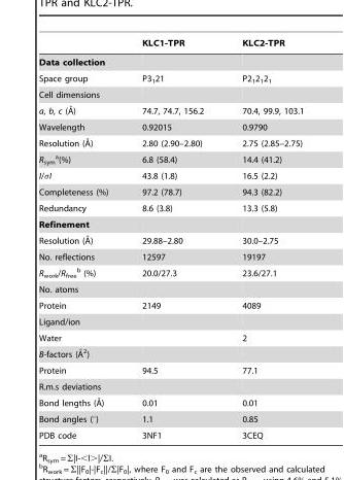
<table><thead><tr><td></td><td>KLC1-TPR</td><td>KLC2-TPR</td></tr></thead><tbody><tr><td colspan="3">Data collection</td></tr><tr><td>Space group</td><td>P3<sub>1</sub>21</td><td>P2<sub>1</sub>2<sub>1</sub>2<sub>1</sub></td></tr><tr><td colspan="3">Cell dimensions</td></tr><tr><td>a, b, c (A˚)</td><td>74.7, 74.7, 156.2</td><td>70.4, 99.9, 103.1</td></tr><tr><td>Wavelength</td><td>0.92015</td><td>0.9790</td></tr><tr><td>Resolution (A˚)</td><td>2.80 (2.90–2.80)</td><td>2.75 (2.85–2.75)</td></tr><tr><td>R<sub>sym</sub> a(%)</td><td>6.8 (58.4)</td><td>14.4 (41.2)</td></tr><tr><td>I/σI</td><td>43.8 (1.8)</td><td>16.5 (2.2)</td></tr><tr><td>Completeness (%)</td><td>97.2 (78.7)</td><td>94.3 (82.2)</td></tr><tr><td>Redundancy</td><td>8.6 (3.8)</td><td>13.3 (5.8)</td></tr><tr><td colspan="3">Refinement</td></tr><tr><td>Resolution (A˚)</td><td>29.88–2.80</td><td>30.0–2.75</td></tr><tr><td>No. reflections</td><td>12597</td><td>19197</td></tr><tr><td>R<sub>work</sub>/R<sub>free</sub> b (%)</td><td>20.0/27.3</td><td>23.6/27.1</td></tr><tr><td colspan="3">No. atoms</td></tr><tr><td>Protein</td><td>2149</td><td>4089</td></tr><tr><td colspan="3">Ligand/ion</td></tr><tr><td>Water</td><td></td><td>2</td></tr><tr><td colspan="3">B-factors (A˚2)</td></tr><tr><td>Protein</td><td>94.5</td><td>77.1</td></tr><tr><td colspan="3">R.m.s deviations</td></tr><tr><td>Bond lengths (A˚)</td><td>0.01</td><td>0.01</td></tr><tr><td>Bond angles (°)</td><td>1.1</td><td>0.85</td></tr><tr><td>PDB code</td><td>3NF1</td><td>3CEQ</td></tr></tbody></table>